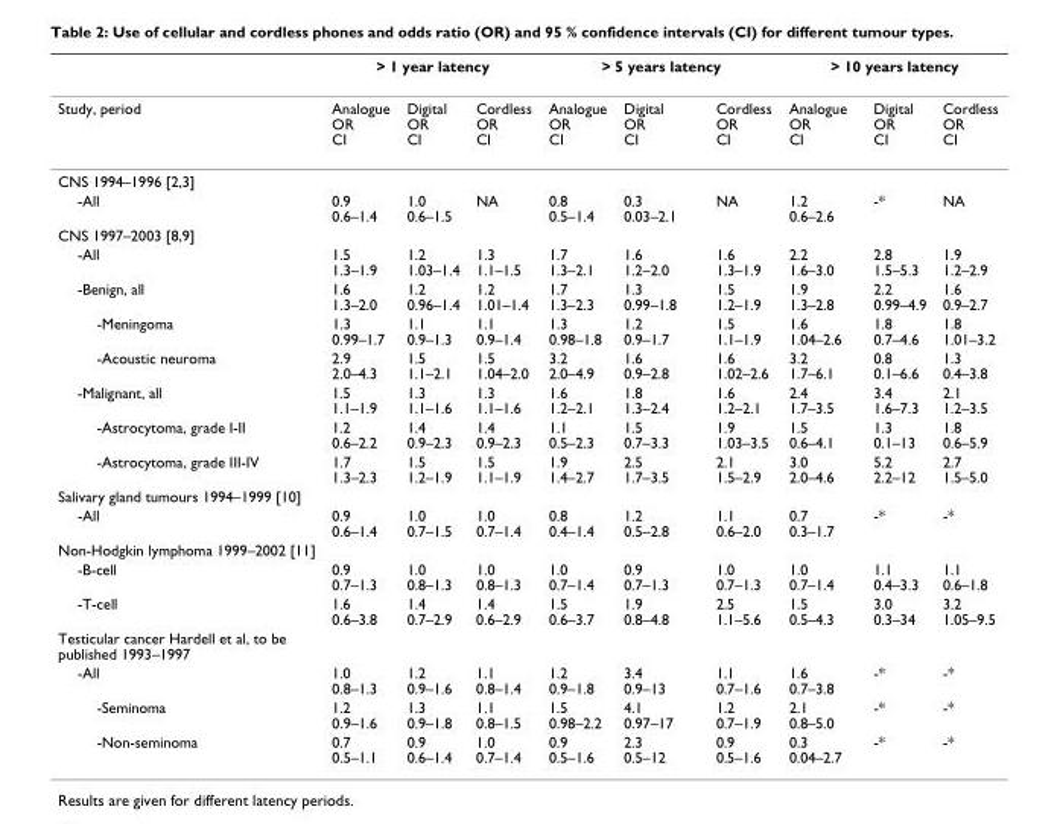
<table><thead><tr><td rowspan="2">Study, period</td><td colspan="3">&gt; 1 year latency</td><td colspan="3">&gt; 5 years latency</td><td colspan="3">&gt; 10 years latency</td></tr><tr><td>Analogue OR CI</td><td>Digital OR CI</td><td>Cordless OR CI</td><td>Analogue OR CI</td><td>Digital OR CI</td><td>Cordless OR CI</td><td>Analogue OR CI</td><td>Digital OR CI</td><td>Cordless OR CI</td></tr></thead><tbody><tr><td colspan="10">CNS 1994–1996 [2,3]</td></tr><tr><td>-All</td><td>0.9 0.6–1.4</td><td>1.0 0.6–1.5</td><td>NA</td><td>0.8 0.5–1.4</td><td>0.3 0.03–2.1</td><td>NA</td><td>1.2 0.6–2.6</td><td>-*</td><td>NA</td></tr><tr><td colspan="10">CNS 1997–2003 [8,9]</td></tr><tr><td>-All</td><td>1.5 1.3–1.9</td><td>1.2 1.03–1.4</td><td>1.3 1.1–1.5</td><td>1.7 1.3–2.1</td><td>1.6 1.2–2.0</td><td>1.6 1.3–1.9</td><td>2.2 1.6–3.0</td><td>2.8 1.5–5.3</td><td>1.9 1.2–2.9</td></tr><tr><td>-Benign, all</td><td>1.6 1.3–2.0</td><td>1.2 0.96–1.4</td><td>1.2 1.01–1.4</td><td>1.7 1.3–2.3</td><td>1.3 0.99–1.8</td><td>1.5 1.2–1.9</td><td>1.9 1.3–2.8</td><td>2.2 0.99–4.9</td><td>1.6 0.9–2.7</td></tr><tr><td>-Meningoma</td><td>1.3 0.99–1.7</td><td>1.1 0.9–1.3</td><td>1.1 0.9–1.4</td><td>1.3 0.98–1.8</td><td>1.2 0.9–1.7</td><td>1.5 1.1–1.9</td><td>1.6 1.04–2.6</td><td>1.8 0.7–4.6</td><td>1.8 1.01–3.2</td></tr><tr><td>-Acoustic neuroma</td><td>2.9 2.0–4.3</td><td>1.5 1.1–2.1</td><td>1.5 1.04–2.0</td><td>3.2 2.0–4.9</td><td>1.6 0.9–2.8</td><td>1.6 1.02–2.6</td><td>3.2 1.7–6.1</td><td>0.8 0.1–6.6</td><td>1.3 0.4–3.8</td></tr><tr><td>-Malignant, all</td><td>1.5 1.1–1.9</td><td>1.3 1.1–1.6</td><td>1.3 1.1–1.6</td><td>1.6 1.2–2.1</td><td>1.8 1.3–2.4</td><td>1.6 1.2–2.1</td><td>2.4 1.7–3.5</td><td>3.4 1.6–7.3</td><td>2.1 1.2–3.5</td></tr><tr><td>-Astrocytoma, grade I-II</td><td>1.2 0.6–2.2</td><td>1.4 0.9–2.3</td><td>1.4 0.9–2.3</td><td>1.1 0.5–2.3</td><td>1.5 0.7–3.3</td><td>1.9 1.03–3.5</td><td>1.5 0.6–4.1</td><td>1.3 0.1–13</td><td>1.8 0.6–5.9</td></tr><tr><td>-Astrocytoma, grade III-IV</td><td>1.7 1.3–2.3</td><td>1.5 1.2–1.9</td><td>1.5 1.1–1.9</td><td>1.9 1.4–2.7</td><td>2.5 1.7–3.5</td><td>2.1 1.5–2.9</td><td>3.0 2.0–4.6</td><td>5.2 2.2–12</td><td>2.7 1.5–5.0</td></tr><tr><td colspan="10">Salivary gland tumours 1994–1999 [10]</td></tr><tr><td>-All</td><td>0.9 0.6–1.4</td><td>1.0 0.7–1.5</td><td>1.0 0.7–1.4</td><td>0.8 0.4–1.4</td><td>1.2 0.5–2.8</td><td>1.1 0.6–2.0</td><td>0.7 0.3–1.7</td><td>-*</td><td>-*</td></tr><tr><td colspan="10">Non-Hodgkin lymphoma 1999–2002 [11]</td></tr><tr><td>-B-cell</td><td>0.9 0.7–1.3</td><td>1.0 0.8–1.3</td><td>1.0 0.8–1.3</td><td>1.0 0.7–1.4</td><td>0.9 0.7–1.3</td><td>1.0 0.7–1.3</td><td>1.0 0.7–1.4</td><td>1.1 0.4–3.3</td><td>1.1 0.6–1.8</td></tr><tr><td>-T-cell</td><td>1.6 0.6–3.8</td><td>1.4 0.7–2.9</td><td>1.4 0.6–2.9</td><td>1.5 0.6–3.7</td><td>1.9 0.8–4.8</td><td>2.5 1.1–5.6</td><td>1.5 0.5–4.3</td><td>3.0 0.3–34</td><td>3.2 1.05–9.5</td></tr><tr><td colspan="10">Testicular cancer Hardell et al, to be published 1993–1997</td></tr><tr><td>-All</td><td>1.0 0.8–1.3</td><td>1.2 0.9–1.6</td><td>1.1 0.8–1.4</td><td>1.2 0.9–1.8</td><td>3.4 0.9–13</td><td>1.1 0.7–1.6</td><td>1.6 0.7–3.8</td><td>-*</td><td>-*</td></tr><tr><td>-Seminoma</td><td>1.2 0.9–1.6</td><td>1.3 0.9–1.8</td><td>1.1 0.8–1.5</td><td>1.5 0.98–2.2</td><td>4.1 0.97–17</td><td>1.2 0.7–1.9</td><td>2.1 0.8–5.0</td><td>-*</td><td>-*</td></tr><tr><td>-Non-seminoma</td><td>0.7 0.5–1.1</td><td>0.9 0.6–1.4</td><td>1.0 0.7–1.4</td><td>0.9 0.5–1.6</td><td>2.3 0.5–12</td><td>0.9 0.5–1.6</td><td>0.3 0.04–2.7</td><td>-*</td><td>-*</td></tr></tbody></table>